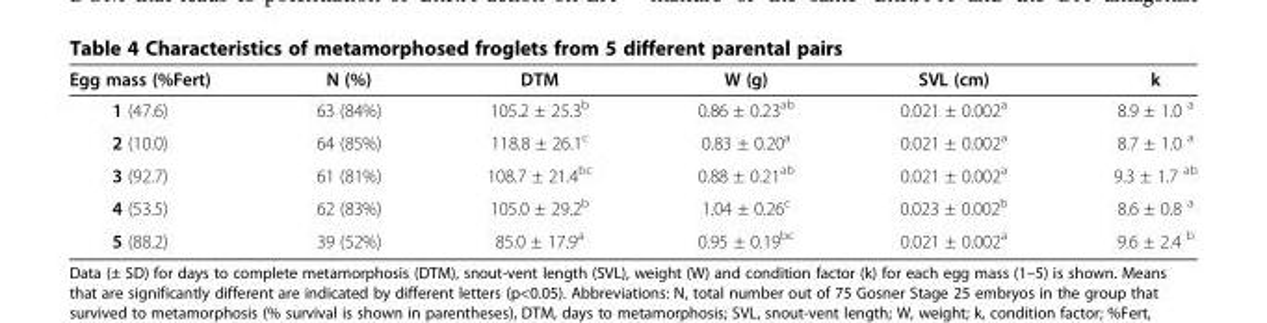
<table><thead><tr><td>Egg mass (%Fert)</td><td>N (%)</td><td>DTM</td><td>W (g)</td><td>SVL (cm)</td><td>k</td></tr></thead><tbody><tr><td>1 (47.6)</td><td>63 (84%)</td><td>105.2 ± 25.3<sup>b</sup></td><td>0.86 ± 0.23<sup>ab</sup></td><td>0.021 ± 0.002<sup>a</sup></td><td>8.9 ± 1.0 <sup>a</sup></td></tr><tr><td>2 (10.0)</td><td>64 (85%)</td><td>118.8 ± 26.1<sup>c</sup></td><td>0.83 ± 0.20<sup>a</sup></td><td>0.021 ± 0.002<sup>a</sup></td><td>8.7 ± 1.0 <sup>a</sup></td></tr><tr><td>3 (92.7)</td><td>61 (81%)</td><td>108.7 ± 21.4<sup>bc</sup></td><td>0.88 ± 0.21<sup>ab</sup></td><td>0.021 ± 0.002<sup>a</sup></td><td>9.3 ± 1.7 <sup>ab</sup></td></tr><tr><td>4 (53.5)</td><td>62 (83%)</td><td>105.0 ± 29.2<sup>b</sup></td><td>1.04 ± 0.26<sup>c</sup></td><td>0.023 ± 0.002<sup>b</sup></td><td>8.6 ± 0.8 <sup>a</sup></td></tr><tr><td>5 (88.2)</td><td>39 (52%)</td><td>85.0 ± 17.9<sup>a</sup></td><td>0.95 ± 0.19<sup>bc</sup></td><td>0.021 ± 0.002<sup>a</sup></td><td>9.6 ± 2.4 <sup>b</sup></td></tr></tbody></table>